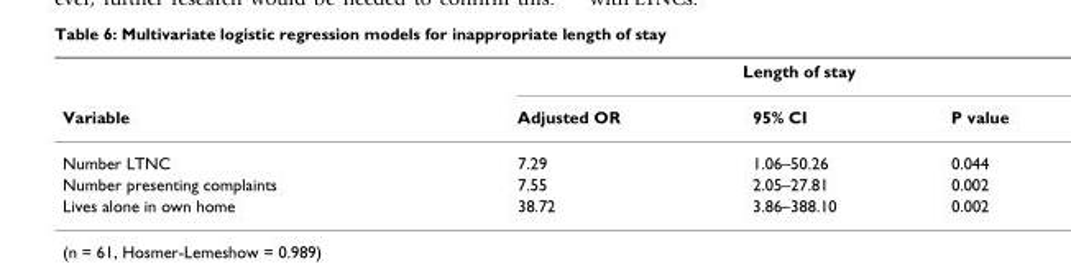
<table><thead><tr><td rowspan="2">Variable</td><td colspan="3">Length of stay</td></tr><tr><td>Adjusted OR</td><td>95% CI</td><td>P value</td></tr></thead><tbody><tr><td>Number LTNC</td><td>7.29</td><td>1.06–50.26</td><td>0.044</td></tr><tr><td>Number presenting complaints</td><td>7.55</td><td>2.05–27.81</td><td>0.002</td></tr><tr><td>Lives alone in own home</td><td>38.72</td><td>3.86–388.10</td><td>0.002</td></tr></tbody></table>